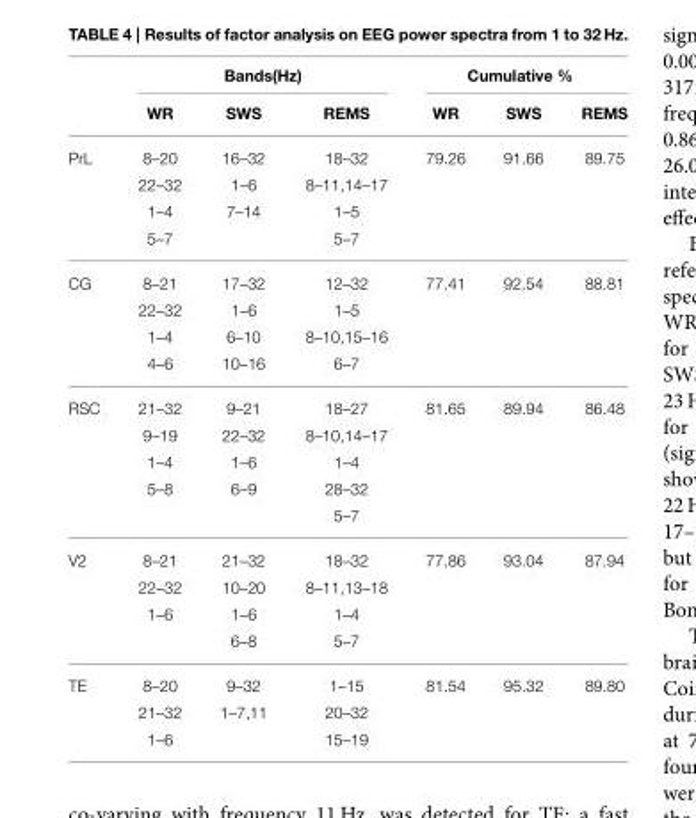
<table><thead><tr><td rowspan="2"></td><td colspan="3">Bands(Hz)</td><td colspan="3">Cumulative %</td></tr><tr><td>WR</td><td>SWS</td><td>REMS</td><td>WR</td><td>SWS</td><td>REMS</td></tr></thead><tbody><tr><td rowspan="4">PrL</td><td>8–20</td><td>16–32</td><td>18–32</td><td>79.26</td><td>91.66</td><td>89.75</td></tr><tr><td>22–32</td><td>1–6</td><td>8–11,14–17</td><td></td><td></td><td></td></tr><tr><td>1–4</td><td>7–14</td><td>1–5</td><td></td><td></td><td></td></tr><tr><td>5–7</td><td></td><td>5–7</td><td></td><td></td><td></td></tr><tr><td rowspan="4">CG</td><td>8–21</td><td>17–32</td><td>12–32</td><td>77.41</td><td>92.54</td><td>88.81</td></tr><tr><td>22–32</td><td>1–6</td><td>1–5</td><td></td><td></td><td></td></tr><tr><td>1–4</td><td>6–10</td><td>8–10,15–16</td><td></td><td></td><td></td></tr><tr><td>4–6</td><td>10–16</td><td>6–7</td><td></td><td></td><td></td></tr><tr><td rowspan="5">RSC</td><td>21–32</td><td>9–21</td><td>18–27</td><td>81.65</td><td>89.94</td><td>86.48</td></tr><tr><td>9–19</td><td>22–32</td><td>8–10,14–17</td><td></td><td></td><td></td></tr><tr><td>1–4</td><td>1–6</td><td>1–4</td><td></td><td></td><td></td></tr><tr><td>5–8</td><td>6–9</td><td>28–32</td><td></td><td></td><td></td></tr><tr><td></td><td></td><td>5–7</td><td></td><td></td><td></td></tr><tr><td rowspan="4">V2</td><td>8–21</td><td>21–32</td><td>18–32</td><td>77.86</td><td>93.04</td><td>87.94</td></tr><tr><td>22–32</td><td>10–20</td><td>8–11,13–18</td><td></td><td></td><td></td></tr><tr><td>1–6</td><td>1–6</td><td>1–4</td><td></td><td></td><td></td></tr><tr><td></td><td>6–8</td><td>5–7</td><td></td><td></td><td></td></tr><tr><td rowspan="3">TE</td><td>8–20</td><td>9–32</td><td>1–15</td><td>81.54</td><td>95.32</td><td>89.80</td></tr><tr><td>21–32</td><td>1–7,11</td><td>20–32</td><td></td><td></td><td></td></tr><tr><td>1–6</td><td></td><td>15–19</td><td></td><td></td><td></td></tr></tbody></table>